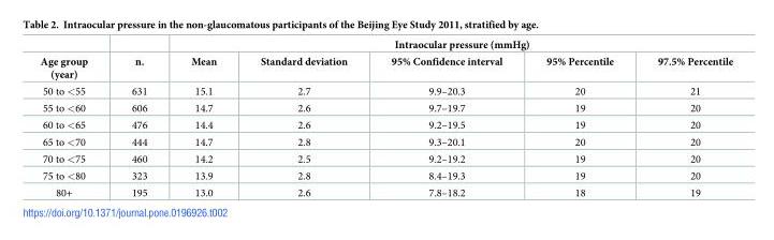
<table><thead><tr><td rowspan="2">Age group (year)</td><td rowspan="2">n.</td><td colspan="5">Intraocular pressure (mmHg)</td></tr><tr><td>Mean</td><td>Standard deviation</td><td>95% Confidence interval</td><td>95% Percentile</td><td>97.5% Percentile</td></tr></thead><tbody><tr><td>50 to &lt;55</td><td>631</td><td>15.1</td><td>2.7</td><td>9.9–20.3</td><td>20</td><td>21</td></tr><tr><td>55 to &lt;60</td><td>606</td><td>14.7</td><td>2.6</td><td>9.7–19.7</td><td>19</td><td>20</td></tr><tr><td>60 to &lt;65</td><td>476</td><td>14.4</td><td>2.6</td><td>9.2–19.5</td><td>19</td><td>20</td></tr><tr><td>65 to &lt;70</td><td>444</td><td>14.7</td><td>2.8</td><td>9.3–20.1</td><td>20</td><td>20</td></tr><tr><td>70 to &lt;75</td><td>460</td><td>14.2</td><td>2.5</td><td>9.2–19.2</td><td>19</td><td>20</td></tr><tr><td>75 to &lt;80</td><td>323</td><td>13.9</td><td>2.8</td><td>8.4–19.3</td><td>19</td><td>20</td></tr><tr><td>80+</td><td>195</td><td>13.0</td><td>2.6</td><td>7.8–18.2</td><td>18</td><td>19</td></tr></tbody></table>